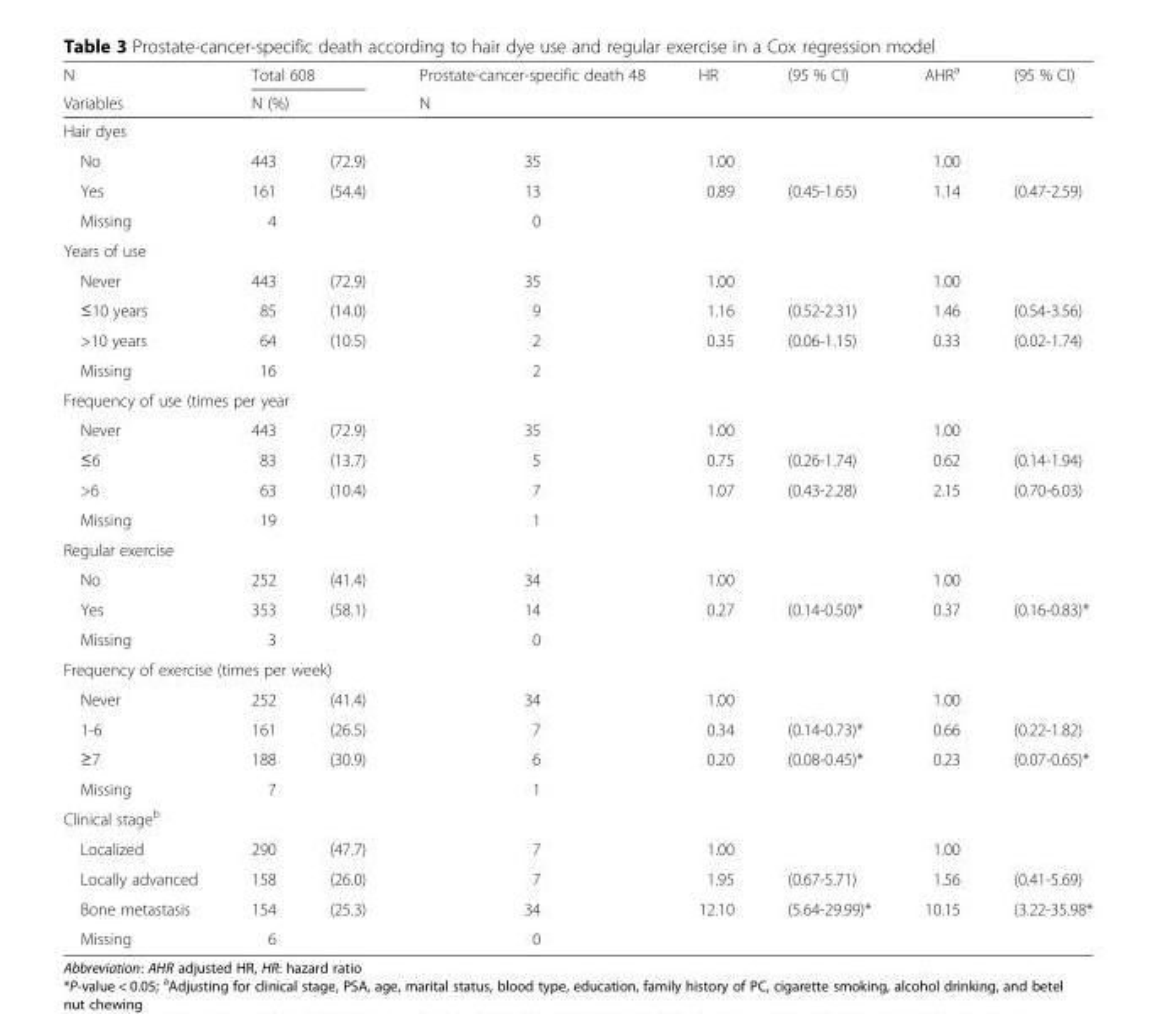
<table><thead><tr><td rowspan="2">N Variables</td><td rowspan="2" colspan="2">Total 608 N (%)</td><td rowspan="2">Prostate-cancer-specific death 48 N</td><td rowspan="2">HR</td><td rowspan="2">(95 % CI)</td><td rowspan="2">AHR<sup>a</sup></td><td rowspan="2">(95 % CI)</td></tr><tr></tr><tr><td colspan="8">Hair dyes</td></tr><tr><td>No</td><td>443</td><td>(72.9)</td><td>35</td><td>1.00</td><td></td><td>1.00</td><td></td></tr></thead><tbody><tr><td>Yes</td><td>161</td><td>(54.4)</td><td>13</td><td>0.89</td><td>(0.45-1.65)</td><td>1.14</td><td>(0.47-2.59)</td></tr><tr><td>Missing</td><td>4</td><td></td><td>0</td><td></td><td></td><td></td><td></td></tr><tr><td colspan="8">Years of use</td></tr><tr><td>Never</td><td>443</td><td>(72.9)</td><td>35</td><td>1.00</td><td></td><td>1.00</td><td></td></tr><tr><td>≤10 years</td><td>85</td><td>(14.0)</td><td>9</td><td>1.16</td><td>(0.52-2.31)</td><td>1.46</td><td>(0.54-3.56)</td></tr><tr><td>&gt;10 years</td><td>64</td><td>(10.5)</td><td>2</td><td>0.35</td><td>(0.06-1.15)</td><td>0.33</td><td>(0.02-1.74)</td></tr><tr><td>Missing</td><td>16</td><td></td><td>2</td><td></td><td></td><td></td><td></td></tr><tr><td colspan="8">Frequency of use (times per year</td></tr><tr><td>Never</td><td>443</td><td>(72.9)</td><td>35</td><td>1.00</td><td></td><td>1.00</td><td></td></tr><tr><td>≤6</td><td>83</td><td>(13.7)</td><td>5</td><td>0.75</td><td>(0.26-1.74)</td><td>0.62</td><td>(0.14-1.94)</td></tr><tr><td>&gt;6</td><td>63</td><td>(10.4)</td><td>7</td><td>1.07</td><td>(0.43-2.28)</td><td>2.15</td><td>(0.70-6.03)</td></tr><tr><td>Missing</td><td>19</td><td></td><td>1</td><td></td><td></td><td></td><td></td></tr><tr><td colspan="8">Regular exercise</td></tr><tr><td>No</td><td>252</td><td>(41.4)</td><td>34</td><td>1.00</td><td></td><td>1.00</td><td></td></tr><tr><td>Yes</td><td>353</td><td>(58.1)</td><td>14</td><td>0.27</td><td>(0.14-0.50)*</td><td>0.37</td><td>(0.16-0.83)*</td></tr><tr><td>Missing</td><td>3</td><td></td><td>0</td><td></td><td></td><td></td><td></td></tr><tr><td colspan="8">Frequency of exercise (times per week)</td></tr><tr><td>Never</td><td>252</td><td>(41.4)</td><td>34</td><td>1.00</td><td></td><td>1.00</td><td></td></tr><tr><td>1-6</td><td>161</td><td>(26.5)</td><td>7</td><td>0.34</td><td>(0.14-0.73)*</td><td>0.66</td><td>(0.22-1.82)</td></tr><tr><td>≥7</td><td>188</td><td>(30.9)</td><td>6</td><td>0.20</td><td>(0.08-0.45)*</td><td>0.23</td><td>(0.07-0.65)*</td></tr><tr><td>Missing</td><td>7</td><td></td><td>1</td><td></td><td></td><td></td><td></td></tr><tr><td colspan="8">Clinical stage<sup>b</sup></td></tr><tr><td>Localized</td><td>290</td><td>(47.7)</td><td>7</td><td>1.00</td><td></td><td>1.00</td><td></td></tr><tr><td>Locally advanced</td><td>158</td><td>(26.0)</td><td>7</td><td>1.95</td><td>(0.67-5.71)</td><td>1.56</td><td>(0.41-5.69)</td></tr><tr><td>Bone metastasis</td><td>154</td><td>(25.3)</td><td>34</td><td>12.10</td><td>(5.64-29.99)*</td><td>10.15</td><td>(3.22-35.98*</td></tr><tr><td>Missing</td><td>6</td><td></td><td>0</td><td></td><td></td><td></td><td></td></tr></tbody></table>